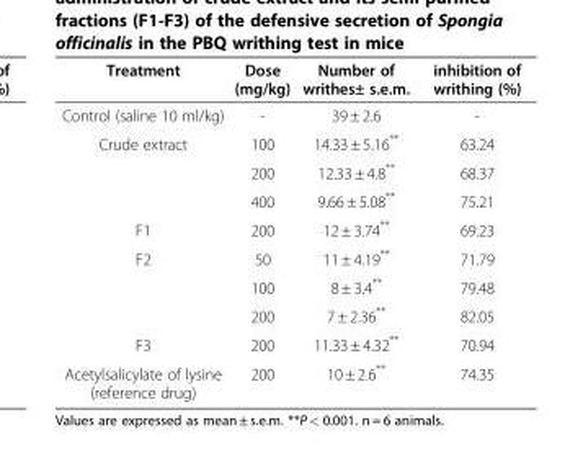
<table><thead><tr><td>Treatment</td><td>Dose (mg/kg)</td><td>Number of writhes± s.e.m.</td><td>inhibition of writhing (%)</td></tr></thead><tbody><tr><td>Control (saline 10 ml/kg)</td><td>-</td><td>39 ± 2.6</td><td>-</td></tr><tr><td rowspan="3">Crude extract</td><td>100</td><td>14.33 ± 5.16**</td><td>63.24</td></tr><tr><td>200</td><td>12.33 ± 4.8**</td><td>68.37</td></tr><tr><td>400</td><td>9.66 ± 5.08**</td><td>75.21</td></tr><tr><td>F1</td><td>200</td><td>12 ± 3.74**</td><td>69.23</td></tr><tr><td rowspan="3">F2</td><td>50</td><td>11 ± 4.19**</td><td>71.79</td></tr><tr><td>100</td><td>8 ± 3.4**</td><td>79.48</td></tr><tr><td>200</td><td>7 ± 2.36**</td><td>82.05</td></tr><tr><td>F3</td><td>200</td><td>11.33 ± 4.32**</td><td>70.94</td></tr><tr><td>Acetylsalicylate of lysine (reference drug)</td><td>200</td><td>10 ± 2.6**</td><td>74.35</td></tr></tbody></table>